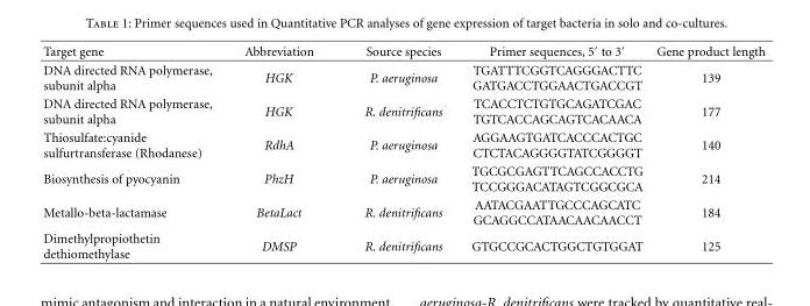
<table><thead><tr><td>Target gene</td><td>Abbreviation</td><td>Source species</td><td>Primer sequences, 5′ to 3′</td><td>Gene product length</td></tr></thead><tbody><tr><td>DNA directed RNA polymerase, subunit alpha</td><td>HGK</td><td>P. aeruginosa</td><td>TGATTTCGGTCAGGGACTTC GATGACCTGGAACTGACCGT</td><td>139</td></tr><tr><td>DNA directed RNA polymerase, subunit alpha</td><td>HGK</td><td>R. denitrificans</td><td>TCACCTCTGTGCAGATCGAC TGTCACCAGCAGTCACAACA</td><td>177</td></tr><tr><td>Thiosulfate:cyanide sulfurtransferase (Rhodanese)</td><td>RdhA</td><td>P. aeruginosa</td><td>AGGAAGTGATCACCCACTGC CTCTACAGGGGTATCGGGGT</td><td>140</td></tr><tr><td>Biosynthesis of pyocyanin</td><td>PhzH</td><td>P. aeruginosa</td><td>TGCGCGAGTTCAGCCACCTG TCCGGGACATAGTCGGCGCA</td><td>214</td></tr><tr><td>Metallo-beta-lactamase</td><td>BetaLact</td><td>R. denitrificans</td><td>AATACGAATTGCCCAGCATC GCAGGCCATAACAACAACCT</td><td>184</td></tr><tr><td>Dimethylpropiothetin dethiomethylase</td><td>DMSP</td><td>R. denitrificans</td><td>GTGCCGCACTGGCTGTGGAT</td><td>125</td></tr></tbody></table>